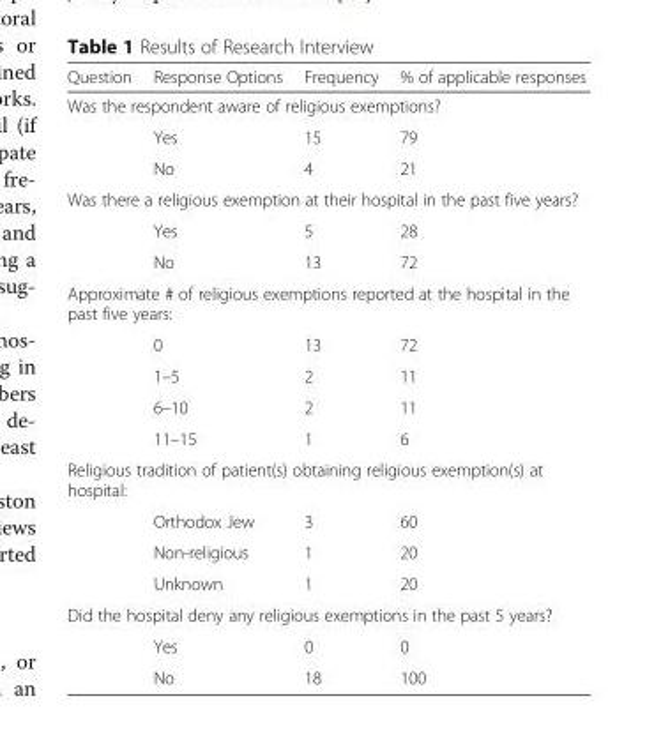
<table><thead><tr><td>Question</td><td>Response Options</td><td>Frequency</td><td>% of applicable responses</td></tr></thead><tbody><tr><td colspan="4">Was the respondent aware of religious exemptions?</td></tr><tr><td></td><td>Yes</td><td>15</td><td>79</td></tr><tr><td></td><td>No</td><td>4</td><td>21</td></tr><tr><td colspan="4">Was there a religious exemption at their hospital in the past five years?</td></tr><tr><td></td><td>Yes</td><td>5</td><td>28</td></tr><tr><td></td><td>No</td><td>13</td><td>72</td></tr><tr><td colspan="4">Approximate # of religious exemptions reported at the hospital in the past five years:</td></tr><tr><td></td><td>0</td><td>13</td><td>72</td></tr><tr><td></td><td>1–5</td><td>2</td><td>11</td></tr><tr><td></td><td>6–10</td><td>2</td><td>11</td></tr><tr><td></td><td>11–15</td><td>1</td><td>6</td></tr><tr><td colspan="4">Religious tradition of patient(s) obtaining religious exemption(s) at hospital:</td></tr><tr><td></td><td>Orthodox Jew</td><td>3</td><td>60</td></tr><tr><td></td><td>Non-religious</td><td>1</td><td>20</td></tr><tr><td></td><td>Unknown</td><td>1</td><td>20</td></tr><tr><td colspan="4">Did the hospital deny any religious exemptions in the past 5 years?</td></tr><tr><td></td><td>Yes</td><td>0</td><td>0</td></tr><tr><td></td><td>No</td><td>18</td><td>100</td></tr></tbody></table>